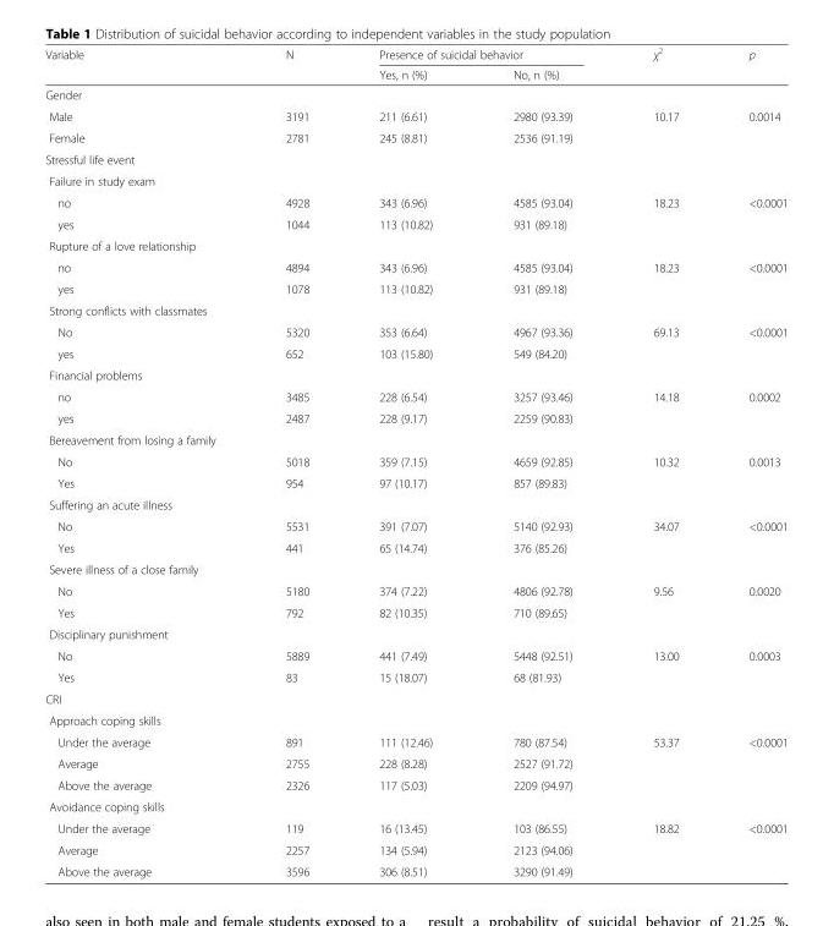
<table><thead><tr><td rowspan="2">Variable</td><td rowspan="2">N</td><td colspan="2">Presence of suicidal behavior</td><td rowspan="2">χ<sup>2</sup></td><td rowspan="2">p</td></tr><tr><td>Yes, n (%)</td><td>No, n (%)</td></tr></thead><tbody><tr><td colspan="6">Gender</td></tr><tr><td>Male</td><td>3191</td><td>211 (6.61)</td><td>2980 (93.39)</td><td rowspan="2">10.17</td><td rowspan="2">0.0014</td></tr><tr><td>Female</td><td>2781</td><td>245 (8.81)</td><td>2536 (91.19)</td></tr><tr><td colspan="6">Stressful life event</td></tr><tr><td colspan="6">Failure in study exam</td></tr><tr><td>no</td><td>4928</td><td>343 (6.96)</td><td>4585 (93.04)</td><td rowspan="2">18.23</td><td rowspan="2">&lt;0.0001</td></tr><tr><td>yes</td><td>1044</td><td>113 (10.82)</td><td>931 (89.18)</td></tr><tr><td colspan="6">Rupture of a love relationship</td></tr><tr><td>no</td><td>4894</td><td>343 (6.96)</td><td>4585 (93.04)</td><td rowspan="2">18.23</td><td rowspan="2">&lt;0.0001</td></tr><tr><td>yes</td><td>1078</td><td>113 (10.82)</td><td>931 (89.18)</td></tr><tr><td colspan="6">Strong conflicts with classmates</td></tr><tr><td>No</td><td>5320</td><td>353 (6.64)</td><td>4967 (93.36)</td><td rowspan="2">69.13</td><td rowspan="2">&lt;0.0001</td></tr><tr><td>yes</td><td>652</td><td>103 (15.80)</td><td>549 (84.20)</td></tr><tr><td colspan="6">Financial problems</td></tr><tr><td>no</td><td>3485</td><td>228 (6.54)</td><td>3257 (93.46)</td><td rowspan="2">14.18</td><td rowspan="2">0.0002</td></tr><tr><td>yes</td><td>2487</td><td>228 (9.17)</td><td>2259 (90.83)</td></tr><tr><td colspan="6">Bereavement from losing a family</td></tr><tr><td>No</td><td>5018</td><td>359 (7.15)</td><td>4659 (92.85)</td><td rowspan="2">10.32</td><td rowspan="2">0.0013</td></tr><tr><td>Yes</td><td>954</td><td>97 (10.17)</td><td>857 (89.83)</td></tr><tr><td colspan="6">Suffering an acute illness</td></tr><tr><td>No</td><td>5531</td><td>391 (7.07)</td><td>5140 (92.93)</td><td rowspan="2">34.07</td><td rowspan="2">&lt;0.0001</td></tr><tr><td>Yes</td><td>441</td><td>65 (14.74)</td><td>376 (85.26)</td></tr><tr><td colspan="6">Severe illness of a close family</td></tr><tr><td>No</td><td>5180</td><td>374 (7.22)</td><td>4806 (92.78)</td><td rowspan="2">9.56</td><td rowspan="2">0.0020</td></tr><tr><td>Yes</td><td>792</td><td>82 (10.35)</td><td>710 (89.65)</td></tr><tr><td colspan="6">Disciplinary punishment</td></tr><tr><td>No</td><td>5889</td><td>441 (7.49)</td><td>5448 (92.51)</td><td rowspan="2">13.00</td><td rowspan="2">0.0003</td></tr><tr><td>Yes</td><td>83</td><td>15 (18.07)</td><td>68 (81.93)</td></tr><tr><td colspan="6">CRI</td></tr><tr><td colspan="6">Approach coping skills</td></tr><tr><td>Under the average</td><td>891</td><td>111 (12.46)</td><td>780 (87.54)</td><td rowspan="3">53.37</td><td rowspan="3">&lt;0.0001</td></tr><tr><td>Average</td><td>2755</td><td>228 (8.28)</td><td>2527 (91.72)</td></tr><tr><td>Above the average</td><td>2326</td><td>117 (5.03)</td><td>2209 (94.97)</td></tr><tr><td colspan="6">Avoidance coping skills</td></tr><tr><td>Under the average</td><td>119</td><td>16 (13.45)</td><td>103 (86.55)</td><td rowspan="3">18.82</td><td rowspan="3">&lt;0.0001</td></tr><tr><td>Average</td><td>2257</td><td>134 (5.94)</td><td>2123 (94.06)</td></tr><tr><td>Above the average</td><td>3596</td><td>306 (8.51)</td><td>3290 (91.49)</td></tr></tbody></table>